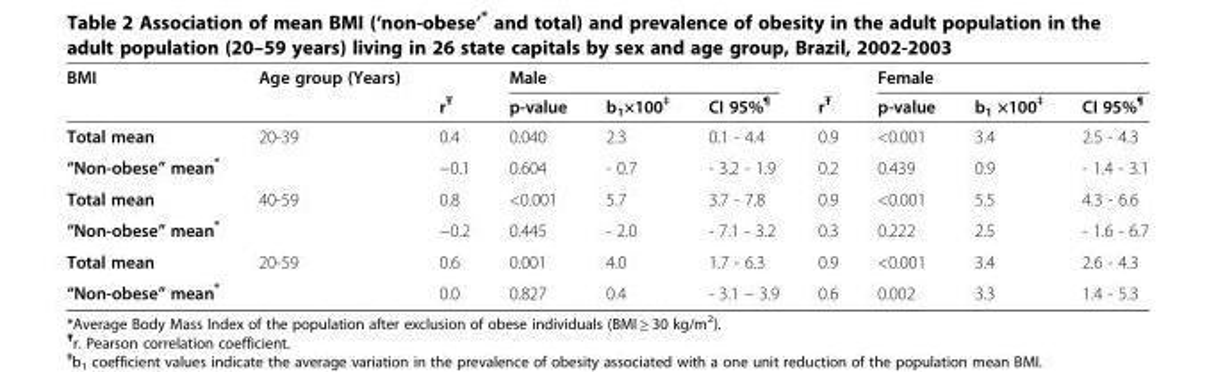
<table><thead><tr><td rowspan="2">BMI</td><td rowspan="2">Age group (Years)</td><td rowspan="2">r<sup>Ŧ</sup></td><td colspan="3">Male</td><td rowspan="2">r<sup>Ŧ</sup></td><td colspan="3">Female</td></tr><tr><td>p-value</td><td>b<sub>1</sub>×100<sup>ǂ</sup></td><td>CI 95%<sup>¶</sup></td><td>p-value</td><td>b<sub>1</sub> ×100<sup>ǂ</sup></td><td>CI 95%<sup>¶</sup></td></tr></thead><tbody><tr><td>Total mean</td><td rowspan="2">20-39</td><td>0.4</td><td>0.040</td><td>2.3</td><td>0.1 - 4.4</td><td>0.9</td><td>&lt;0.001</td><td>3.4</td><td>2.5 - 4.3</td></tr><tr><td>“Non-obese” mean*</td><td>−0.1</td><td>0.604</td><td>- 0.7</td><td>- 3.2 - 1.9</td><td>0.2</td><td>0.439</td><td>0.9</td><td>- 1.4 - 3.1</td></tr><tr><td>Total mean</td><td rowspan="2">40-59</td><td>0.8</td><td>&lt;0.001</td><td>5.7</td><td>3.7 - 7.8</td><td>0.9</td><td>&lt;0.001</td><td>5.5</td><td>4.3 - 6.6</td></tr><tr><td>“Non-obese” mean*</td><td>−0.2</td><td>0.445</td><td>- 2.0</td><td>- 7.1 - 3.2</td><td>0.3</td><td>0.222</td><td>2.5</td><td>- 1.6 - 6.7</td></tr><tr><td>Total mean</td><td rowspan="2">20-59</td><td>0.6</td><td>0.001</td><td>4.0</td><td>1.7 - 6.3</td><td>0.9</td><td>&lt;0.001</td><td>3.4</td><td>2.6 - 4.3</td></tr><tr><td>“Non-obese” mean*</td><td>0.0</td><td>0.827</td><td>0.4</td><td>- 3.1 – 3.9</td><td>0.6</td><td>0.002</td><td>3.3</td><td>1.4 - 5.3</td></tr></tbody></table>